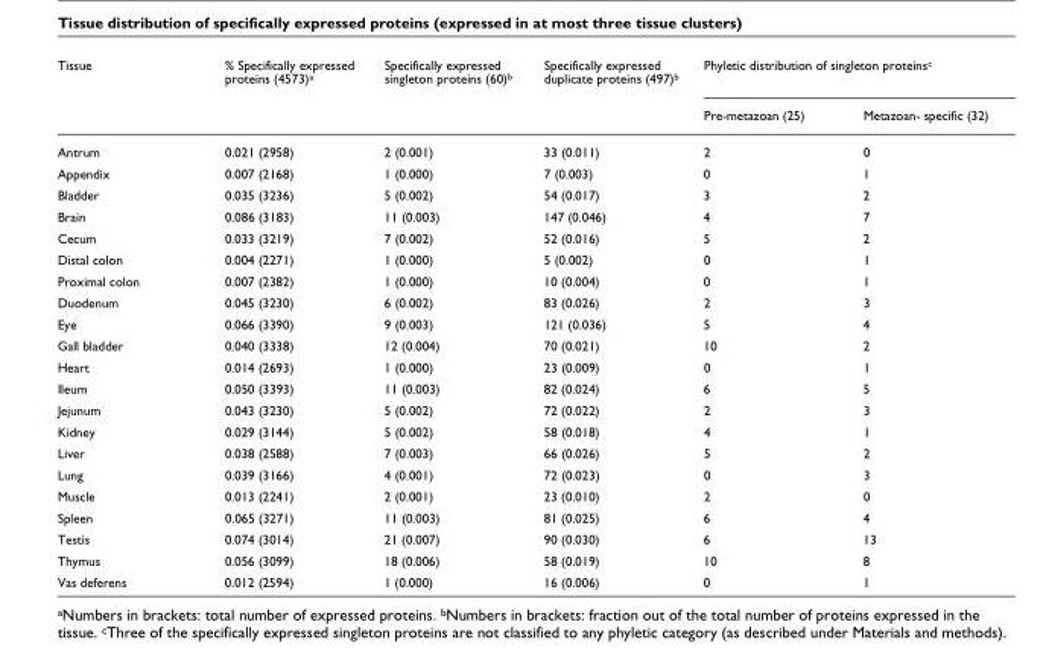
<table><thead><tr><td rowspan="2">Tissue</td><td rowspan="2">% Specifically expressed proteins (4573)a</td><td rowspan="2">Specifically expressed singleton proteins (60)b</td><td rowspan="2">Specifically expressed duplicate proteins (497)b</td><td colspan="2">Phyletic distribution of singleton proteinsc</td></tr><tr><td>Pre-metazoan (25)</td><td>Metazoan- specific (32)</td></tr></thead><tbody><tr><td>Antrum</td><td>0.021 (2958)</td><td>2 (0.001)</td><td>33 (0.011)</td><td>2</td><td>0</td></tr><tr><td>Appendix</td><td>0.007 (2168)</td><td>1 (0.000)</td><td>7 (0.003)</td><td>0</td><td>1</td></tr><tr><td>Bladder</td><td>0.035 (3236)</td><td>5 (0.002)</td><td>54 (0.017)</td><td>3</td><td>2</td></tr><tr><td>Brain</td><td>0.086 (3183)</td><td>11 (0.003)</td><td>147 (0.046)</td><td>4</td><td>7</td></tr><tr><td>Cecum</td><td>0.033 (3219)</td><td>7 (0.002)</td><td>52 (0.016)</td><td>5</td><td>2</td></tr><tr><td>Distal colon</td><td>0.004 (2271)</td><td>1 (0.000)</td><td>5 (0.002)</td><td>0</td><td>1</td></tr><tr><td>Proximal colon</td><td>0.007 (2382)</td><td>1 (0.000)</td><td>10 (0.004)</td><td>0</td><td>1</td></tr><tr><td>Duodenum</td><td>0.045 (3230)</td><td>6 (0.002)</td><td>83 (0.026)</td><td>2</td><td>3</td></tr><tr><td>Eye</td><td>0.066 (3390)</td><td>9 (0.003)</td><td>121 (0.036)</td><td>5</td><td>4</td></tr><tr><td>Gall bladder</td><td>0.040 (3338)</td><td>12 (0.004)</td><td>70 (0.021)</td><td>10</td><td>2</td></tr><tr><td>Heart</td><td>0.014 (2693)</td><td>1 (0.000)</td><td>23 (0.009)</td><td>0</td><td>1</td></tr><tr><td>Ileum</td><td>0.050 (3393)</td><td>11 (0.003)</td><td>82 (0.024)</td><td>6</td><td>5</td></tr><tr><td>Jejunum</td><td>0.043 (3230)</td><td>5 (0.002)</td><td>72 (0.022)</td><td>2</td><td>3</td></tr><tr><td>Kidney</td><td>0.029 (3144)</td><td>5 (0.002)</td><td>58 (0.018)</td><td>4</td><td>1</td></tr><tr><td>Liver</td><td>0.038 (2588)</td><td>7 (0.003)</td><td>66 (0.026)</td><td>5</td><td>2</td></tr><tr><td>Lung</td><td>0.039 (3166)</td><td>4 (0.001)</td><td>72 (0.023)</td><td>0</td><td>3</td></tr><tr><td>Muscle</td><td>0.013 (2241)</td><td>2 (0.001)</td><td>23 (0.010)</td><td>2</td><td>0</td></tr><tr><td>Spleen</td><td>0.065 (3271)</td><td>11 (0.003)</td><td>81 (0.025)</td><td>6</td><td>4</td></tr><tr><td>Testis</td><td>0.074 (3014)</td><td>21 (0.007)</td><td>90 (0.030)</td><td>6</td><td>13</td></tr><tr><td>Thymus</td><td>0.056 (3099)</td><td>18 (0.006)</td><td>58 (0.019)</td><td>10</td><td>8</td></tr><tr><td>Vas deferens</td><td>0.012 (2594)</td><td>1 (0.000)</td><td>16 (0.006)</td><td>0</td><td>1</td></tr></tbody></table>